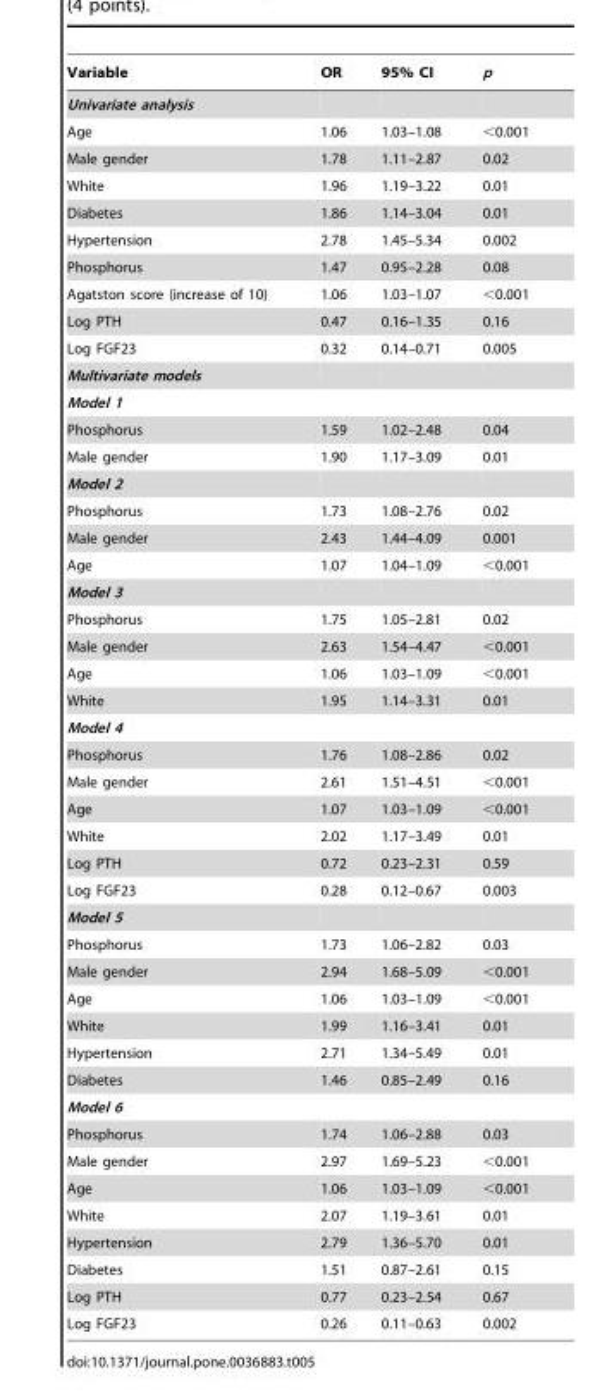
<table><thead><tr><td>Variable</td><td>OR</td><td>95% CI</td><td>p</td></tr></thead><tbody><tr><td colspan="4">Univariate analysis</td></tr><tr><td>Age</td><td>1.06</td><td>1.03–1.08</td><td>&lt;0.001</td></tr><tr><td>Male gender</td><td>1.78</td><td>1.11–2.87</td><td>0.02</td></tr><tr><td>White</td><td>1.96</td><td>1.19–3.22</td><td>0.01</td></tr><tr><td>Diabetes</td><td>1.86</td><td>1.14–3.04</td><td>0.01</td></tr><tr><td>Hypertension</td><td>2.78</td><td>1.45–5.34</td><td>0.002</td></tr><tr><td>Phosphorus</td><td>1.47</td><td>0.95–2.28</td><td>0.08</td></tr><tr><td>Agatston score (increase of 10)</td><td>1.06</td><td>1.03–1.07</td><td>&lt;0.001</td></tr><tr><td>Log PTH</td><td>0.47</td><td>0.16–1.35</td><td>0.16</td></tr><tr><td>Log FGF23</td><td>0.32</td><td>0.14–0.71</td><td>0.005</td></tr><tr><td colspan="4">Multivariate models</td></tr><tr><td colspan="4">Model 1</td></tr><tr><td>Phosphorus</td><td>1.59</td><td>1.02–2.48</td><td>0.04</td></tr><tr><td>Male gender</td><td>1.90</td><td>1.17–3.09</td><td>0.01</td></tr><tr><td colspan="4">Model 2</td></tr><tr><td>Phosphorus</td><td>1.73</td><td>1.08–2.76</td><td>0.02</td></tr><tr><td>Male gender</td><td>2.43</td><td>1.44–4.09</td><td>0.001</td></tr><tr><td>Age</td><td>1.07</td><td>1.04–1.09</td><td>&lt;0.001</td></tr><tr><td colspan="4">Model 3</td></tr><tr><td>Phosphorus</td><td>1.75</td><td>1.05–2.81</td><td>0.02</td></tr><tr><td>Male gender</td><td>2.63</td><td>1.54–4.47</td><td>&lt;0.001</td></tr><tr><td>Age</td><td>1.06</td><td>1.03–1.09</td><td>&lt;0.001</td></tr><tr><td>White</td><td>1.95</td><td>1.14–3.31</td><td>0.01</td></tr><tr><td colspan="4">Model 4</td></tr><tr><td>Phosphorus</td><td>1.76</td><td>1.08–2.86</td><td>0.02</td></tr><tr><td>Male gender</td><td>2.61</td><td>1.51–4.51</td><td>&lt;0.001</td></tr><tr><td>Age</td><td>1.07</td><td>1.03–1.09</td><td>&lt;0.001</td></tr><tr><td>White</td><td>2.02</td><td>1.17–3.49</td><td>0.01</td></tr><tr><td>Log PTH</td><td>0.72</td><td>0.23–2.31</td><td>0.59</td></tr><tr><td>Log FGF23</td><td>0.28</td><td>0.12–0.67</td><td>0.003</td></tr><tr><td colspan="4">Model 5</td></tr><tr><td>Phosphorus</td><td>1.73</td><td>1.06–2.82</td><td>0.03</td></tr><tr><td>Male gender</td><td>2.94</td><td>1.68–5.09</td><td>&lt;0.001</td></tr><tr><td>Age</td><td>1.06</td><td>1.03–1.09</td><td>&lt;0.001</td></tr><tr><td>White</td><td>1.99</td><td>1.16–3.41</td><td>0.01</td></tr><tr><td>Hypertension</td><td>2.71</td><td>1.34–5.49</td><td>0.01</td></tr><tr><td>Diabetes</td><td>1.46</td><td>0.85–2.49</td><td>0.16</td></tr><tr><td colspan="4">Model 6</td></tr><tr><td>Phosphorus</td><td>1.74</td><td>1.06–2.88</td><td>0.03</td></tr><tr><td>Male gender</td><td>2.97</td><td>1.69–5.23</td><td>&lt;0.001</td></tr><tr><td>Age</td><td>1.06</td><td>1.03–1.09</td><td>&lt;0.001</td></tr><tr><td>White</td><td>2.07</td><td>1.19–3.61</td><td>0.01</td></tr><tr><td>Hypertension</td><td>2.79</td><td>1.36–5.70</td><td>0.01</td></tr><tr><td>Diabetes</td><td>1.51</td><td>0.87–2.61</td><td>0.15</td></tr><tr><td>Log PTH</td><td>0.77</td><td>0.23–2.54</td><td>0.67</td></tr><tr><td>Log FGF23</td><td>0.26</td><td>0.11–0.63</td><td>0.002</td></tr></tbody></table>